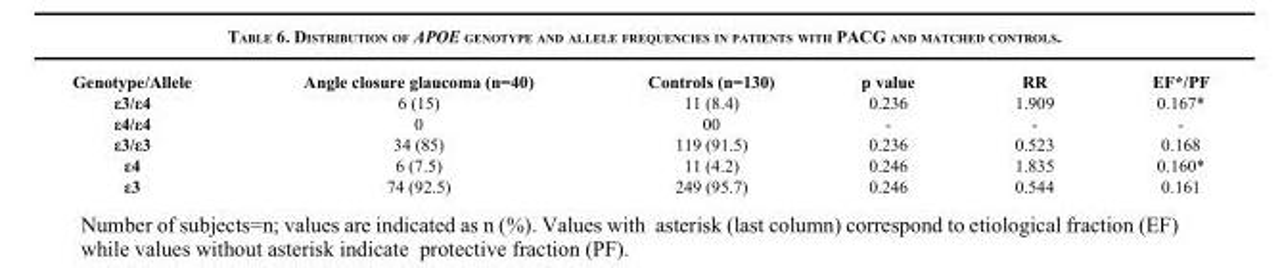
<table><thead><tr><td>Genotype/Allele</td><td>Angle closure glaucoma (n=40)</td><td>Controls (n=130)</td><td>p value</td><td>RR</td><td>EF*/PF</td></tr></thead><tbody><tr><td>ε3/ε4</td><td>6 (15)</td><td>11 (8.4)</td><td>0.236</td><td>1.909</td><td>0.167*</td></tr><tr><td>ε4/ε4</td><td>0</td><td>00</td><td>-</td><td>-</td><td>-</td></tr><tr><td>ε3/ε3</td><td>34 (85)</td><td>119 (91.5)</td><td>0.236</td><td>0.523</td><td>0.168</td></tr><tr><td>ε4</td><td>6 (7.5)</td><td>11 (4.2)</td><td>0.246</td><td>1.835</td><td>0.160*</td></tr><tr><td>ε3</td><td>74 (92.5)</td><td>249 (95.7)</td><td>0.246</td><td>0.544</td><td>0.161</td></tr></tbody></table>